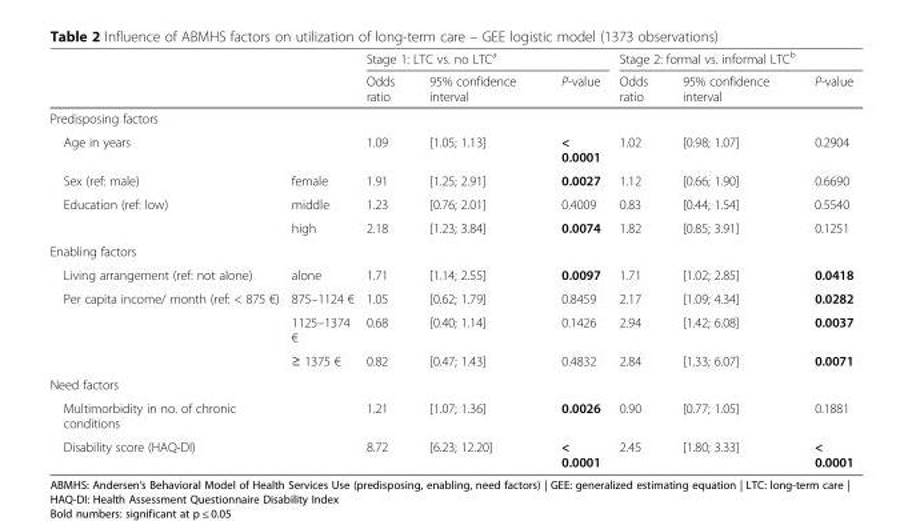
<table><thead><tr><td rowspan="2"></td><td rowspan="2"></td><td colspan="3">Stage 1: LTC vs. no LTC<sup>a</sup></td><td colspan="3">Stage 2: formal vs. informal LTC<sup>b</sup></td></tr><tr><td>Odds ratio</td><td>95% confidence interval</td><td>P-value</td><td>Odds ratio</td><td>95% confidence interval</td><td>P-value</td></tr></thead><tbody><tr><td colspan="8">Predisposing factors</td></tr><tr><td>Age in years</td><td></td><td>1.09</td><td>[1.05; 1.13]</td><td>&lt; 0.0001</td><td>1.02</td><td>[0.98; 1.07]</td><td>0.2904</td></tr><tr><td>Sex (ref: male)</td><td>female</td><td>1.91</td><td>[1.25; 2.91]</td><td>0.0027</td><td>1.12</td><td>[0.66; 1.90]</td><td>0.6690</td></tr><tr><td rowspan="2">Education (ref: low)</td><td>middle</td><td>1.23</td><td>[0.76; 2.01]</td><td>0.4009</td><td>0.83</td><td>[0.44; 1.54]</td><td>0.5540</td></tr><tr><td>high</td><td>2.18</td><td>[1.23; 3.84]</td><td>0.0074</td><td>1.82</td><td>[0.85; 3.91]</td><td>0.1251</td></tr><tr><td colspan="8">Enabling factors</td></tr><tr><td>Living arrangement (ref: not alone)</td><td>alone</td><td>1.71</td><td>[1.14; 2.55]</td><td>0.0097</td><td>1.71</td><td>[1.02; 2.85]</td><td>0.0418</td></tr><tr><td rowspan="3">Per capita income/ month (ref: &lt; 875 €)</td><td>875–1124 €</td><td>1.05</td><td>[0.62; 1.79]</td><td>0.8459</td><td>2.17</td><td>[1.09; 4.34]</td><td>0.0282</td></tr><tr><td>1125–1374 €</td><td>0.68</td><td>[0.40; 1.14]</td><td>0.1426</td><td>2.94</td><td>[1.42; 6.08]</td><td>0.0037</td></tr><tr><td>≥ 1375 €</td><td>0.82</td><td>[0.47; 1.43]</td><td>0.4832</td><td>2.84</td><td>[1.33; 6.07]</td><td>0.0071</td></tr><tr><td colspan="8">Need factors</td></tr><tr><td>Multimorbidity in no. of chronic conditions</td><td></td><td>1.21</td><td>[1.07; 1.36]</td><td>0.0026</td><td>0.90</td><td>[0.77; 1.05]</td><td>0.1881</td></tr><tr><td>Disability score (HAQ-DI)</td><td></td><td>8.72</td><td>[6.23; 12.20]</td><td>&lt; 0.0001</td><td>2.45</td><td>[1.80; 3.33]</td><td>&lt; 0.0001</td></tr></tbody></table>